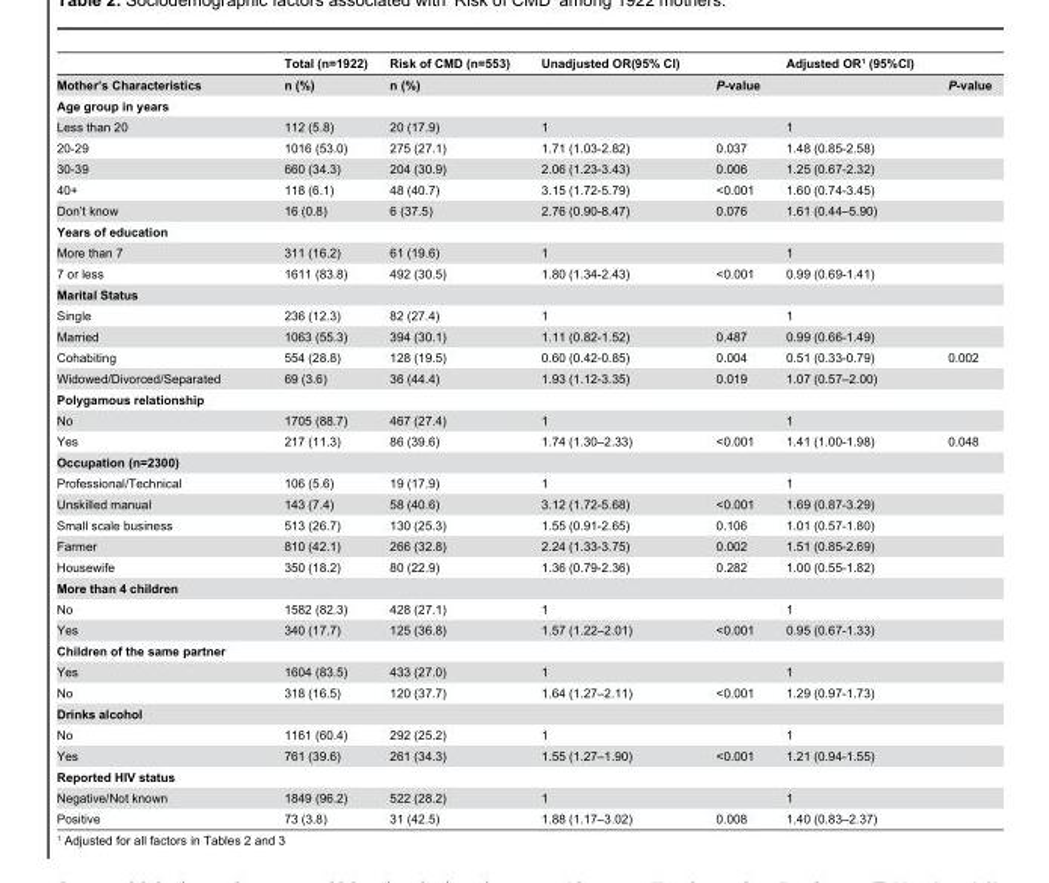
<table><thead><tr><td></td><td>Total (n=1922)</td><td>Risk of CMD (n=553)</td><td>Unadjusted OR(95% CI)</td><td></td><td>Adjusted OR<sup>1</sup> (95%CI)</td><td></td></tr></thead><tbody><tr><td>Mother’s Characteristics</td><td>n (%)</td><td>n (%)</td><td></td><td>P-value</td><td></td><td>P-value</td></tr><tr><td colspan="7">Age group in years</td></tr><tr><td>Less than 20</td><td>112 (5.8)</td><td>20 (17.9)</td><td>1</td><td></td><td>1</td><td></td></tr><tr><td>20-29</td><td>1016 (53.0)</td><td>275 (27.1)</td><td>1.71 (1.03-2.82)</td><td>0.037</td><td>1.48 (0.85-2.58)</td><td></td></tr><tr><td>30-39</td><td>660 (34.3)</td><td>204 (30.9)</td><td>2.06 (1.23-3.43)</td><td>0.006</td><td>1.25 (0.67-2.32)</td><td></td></tr><tr><td>40+</td><td>118 (6.1)</td><td>48 (40.7)</td><td>3.15 (1.72-5.79)</td><td>&lt;0.001</td><td>1.60 (0.74-3.45)</td><td></td></tr><tr><td>Don’t know</td><td>16 (0.8)</td><td>6 (37.5)</td><td>2.76 (0.90-8.47)</td><td>0.076</td><td>1.61 (0.44–5.90)</td><td></td></tr><tr><td colspan="7">Years of education</td></tr><tr><td>More than 7</td><td>311 (16.2)</td><td>61 (19.6)</td><td>1</td><td></td><td>1</td><td></td></tr><tr><td>7 or less</td><td>1611 (83.8)</td><td>492 (30.5)</td><td>1.80 (1.34-2.43)</td><td>&lt;0.001</td><td>0.99 (0.69-1.41)</td><td></td></tr><tr><td colspan="7">Marital Status</td></tr><tr><td>Single</td><td>236 (12.3)</td><td>82 (27.4)</td><td>1</td><td></td><td>1</td><td></td></tr><tr><td>Married</td><td>1063 (55.3)</td><td>394 (30.1)</td><td>1.11 (0.82-1.52)</td><td>0.487</td><td>0.99 (0.66-1.49)</td><td></td></tr><tr><td>Cohabiting</td><td>554 (28.8)</td><td>128 (19.5)</td><td>0.60 (0.42-0.85)</td><td>0.004</td><td>0.51 (0.33-0.79)</td><td>0.002</td></tr><tr><td>Widowed/Divorced/Separated</td><td>69 (3.6)</td><td>36 (44.4)</td><td>1.93 (1.12-3.35)</td><td>0.019</td><td>1.07 (0.57–2.00)</td><td></td></tr><tr><td colspan="7">Polygamous relationship</td></tr><tr><td>No</td><td>1705 (88.7)</td><td>467 (27.4)</td><td>1</td><td></td><td>1</td><td></td></tr><tr><td>Yes</td><td>217 (11.3)</td><td>86 (39.6)</td><td>1.74 (1.30–2.33)</td><td>&lt;0.001</td><td>1.41 (1.00-1.98)</td><td>0.048</td></tr><tr><td colspan="7">Occupation (n=2300)</td></tr><tr><td>Professional/Technical</td><td>106 (5.6)</td><td>19 (17.9)</td><td>1</td><td></td><td>1</td><td></td></tr><tr><td>Unskilled manual</td><td>143 (7.4)</td><td>58 (40.6)</td><td>3.12 (1.72-5.68)</td><td>&lt;0.001</td><td>1.69 (0.87-3.29)</td><td></td></tr><tr><td>Small scale business</td><td>513 (26.7)</td><td>130 (25.3)</td><td>1.55 (0.91-2.65)</td><td>0.106</td><td>1.01 (0.57-1.80)</td><td></td></tr><tr><td>Farmer</td><td>810 (42.1)</td><td>266 (32.8)</td><td>2.24 (1.33-3.75)</td><td>0.002</td><td>1.51 (0.85-2.69)</td><td></td></tr><tr><td>Housewife</td><td>350 (18.2)</td><td>80 (22.9)</td><td>1.36 (0.79-2.36)</td><td>0.282</td><td>1.00 (0.55-1.82)</td><td></td></tr><tr><td colspan="7">More than 4 children</td></tr><tr><td>No</td><td>1582 (82.3)</td><td>428 (27.1)</td><td>1</td><td></td><td>1</td><td></td></tr><tr><td>Yes</td><td>340 (17.7)</td><td>125 (36.8)</td><td>1.57 (1.22–2.01)</td><td>&lt;0.001</td><td>0.95 (0.67-1.33)</td><td></td></tr><tr><td colspan="7">Children of the same partner</td></tr><tr><td>Yes</td><td>1604 (83.5)</td><td>433 (27.0)</td><td>1</td><td></td><td>1</td><td></td></tr><tr><td>No</td><td>318 (16.5)</td><td>120 (37.7)</td><td>1.64 (1.27–2.11)</td><td>&lt;0.001</td><td>1.29 (0.97-1.73)</td><td></td></tr><tr><td colspan="7">Drinks alcohol</td></tr><tr><td>No</td><td>1161 (60.4)</td><td>292 (25.2)</td><td>1</td><td></td><td>1</td><td></td></tr><tr><td>Yes</td><td>761 (39.6)</td><td>261 (34.3)</td><td>1.55 (1.27–1.90)</td><td>&lt;0.001</td><td>1.21 (0.94-1.55)</td><td></td></tr><tr><td colspan="7">Reported HIV status</td></tr><tr><td>Negative/Not known</td><td>1849 (96.2)</td><td>522 (28.2)</td><td>1</td><td></td><td>1</td><td></td></tr><tr><td>Positive</td><td>73 (3.8)</td><td>31 (42.5)</td><td>1.88 (1.17–3.02)</td><td>0.008</td><td>1.40 (0.83–2.37)</td><td></td></tr></tbody></table>